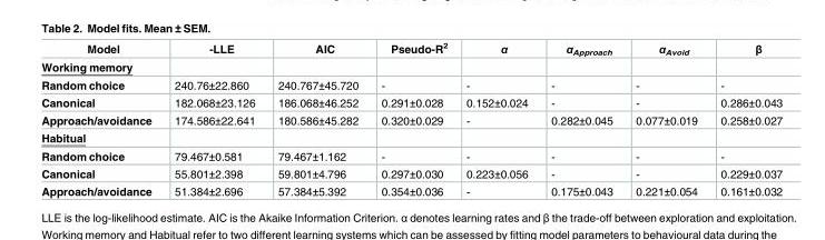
<table><thead><tr><td>Model</td><td>-LLE</td><td>AIC</td><td>Pseudo-R<sup>2</sup></td><td>α</td><td>α<sub>Approach</sub></td><td>α<sub>Avoid</sub></td><td>β</td></tr></thead><tbody><tr><td colspan="8">Working memory</td></tr><tr><td>Random choice</td><td>240.76±22.860</td><td>240.767±45.720</td><td>-</td><td>-</td><td>-</td><td>-</td><td>-</td></tr><tr><td>Canonical</td><td>182.068±23.126</td><td>186.068±46.252</td><td>0.291±0.028</td><td>0.152±0.024</td><td>-</td><td>-</td><td>0.286±0.043</td></tr><tr><td>Approach/avoidance</td><td>174.586±22.641</td><td>180.586±45.282</td><td>0.320±0.029</td><td>-</td><td>0.282±0.045</td><td>0.077±0.019</td><td>0.258±0.027</td></tr><tr><td colspan="8">Habitual</td></tr><tr><td>Random choice</td><td>79.467±0.581</td><td>79.467±1.162</td><td>-</td><td>-</td><td>-</td><td>-</td><td>-</td></tr><tr><td>Canonical</td><td>55.801±2.398</td><td>59.801±4.796</td><td>0.297±0.030</td><td>0.223±0.056</td><td>-</td><td>-</td><td>0.229±0.037</td></tr><tr><td>Approach/avoidance</td><td>51.384±2.696</td><td>57.384±5.392</td><td>0.354±0.036</td><td>-</td><td>0.175±0.043</td><td>0.221±0.054</td><td>0.161±0.032</td></tr></tbody></table>